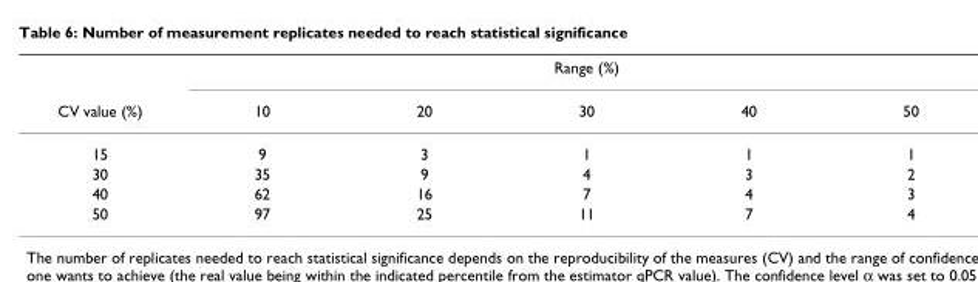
<table><thead><tr><td rowspan="2">CV value (%)</td><td colspan="5">Range (%)</td></tr><tr><td>10</td><td>20</td><td>30</td><td>40</td><td>50</td></tr></thead><tbody><tr><td>15</td><td>9</td><td>3</td><td>1</td><td>1</td><td>1</td></tr><tr><td>30</td><td>35</td><td>9</td><td>4</td><td>3</td><td>2</td></tr><tr><td>40</td><td>62</td><td>16</td><td>7</td><td>4</td><td>3</td></tr><tr><td>50</td><td>97</td><td>25</td><td>11</td><td>7</td><td>4</td></tr></tbody></table>